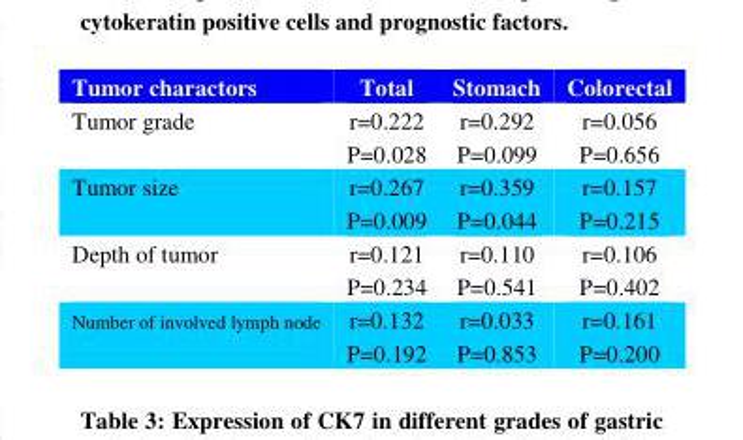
<table><thead><tr><td>Tumor charactors</td><td>Total</td><td>Stomach</td><td>Colorectal</td></tr></thead><tbody><tr><td>Tumor grade</td><td>r=0.222 P=0.028</td><td>r=0.292 P=0.099</td><td>r=0.056 P=0.656</td></tr><tr><td>Tumor size</td><td>r=0.267 P=0.009</td><td>r=0.359 P=0.044</td><td>r=0.157 P=0.215</td></tr><tr><td>Depth of tumor</td><td>r=0.121 P=0.234</td><td>r=0.110 P=0.541</td><td>r=0.106 P=0.402</td></tr><tr><td>Number of involved lymph node</td><td>r=0.132 P=0.192</td><td>r=0.033 P=0.853</td><td>r=0.161 P=0.200</td></tr></tbody></table>